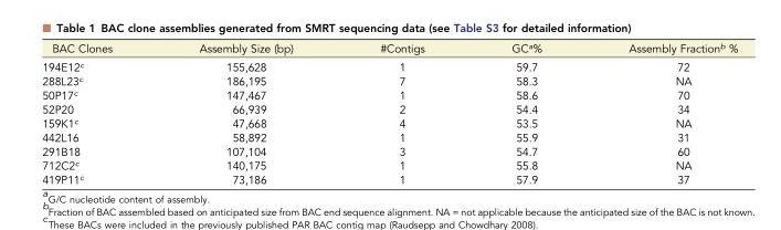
<table><thead><tr><td>BAC Clones</td><td>Assembly Size (bp)</td><td>#Contigs</td><td>GC<sup>a</sup>%</td><td>Assembly Fraction<sup>b</sup> %</td></tr></thead><tbody><tr><td>194E12<sup>c</sup></td><td>155,628</td><td>1</td><td>59.7</td><td>72</td></tr><tr><td>288L23<sup>c</sup></td><td>186,195</td><td>7</td><td>58.3</td><td>NA</td></tr><tr><td>50P17<sup>c</sup></td><td>147,467</td><td>1</td><td>58.6</td><td>70</td></tr><tr><td>52P20</td><td>66,939</td><td>2</td><td>54.4</td><td>34</td></tr><tr><td>159K1<sup>c</sup></td><td>47,668</td><td>4</td><td>53.5</td><td>NA</td></tr><tr><td>442L16</td><td>58,892</td><td>1</td><td>55.9</td><td>31</td></tr><tr><td>291B18</td><td>107,104</td><td>3</td><td>54.7</td><td>60</td></tr><tr><td>712C2<sup>c</sup></td><td>140,175</td><td>1</td><td>55.8</td><td>NA</td></tr><tr><td>419P11<sup>c</sup></td><td>73,186</td><td>1</td><td>57.9</td><td>37</td></tr></tbody></table>